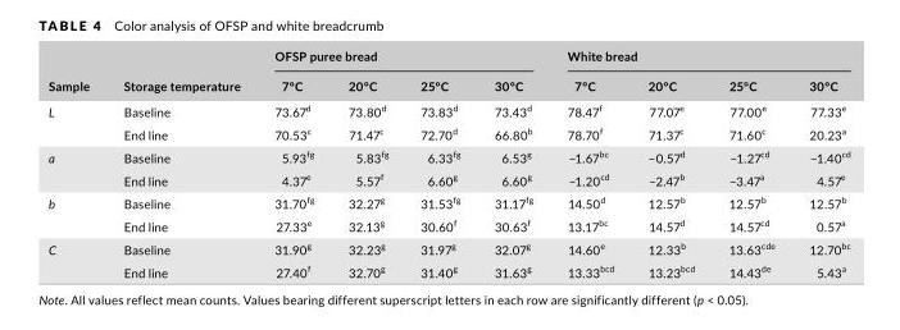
<table><thead><tr><td rowspan="2">Sample</td><td rowspan="2">Storage temperature</td><td colspan="4">OFSP puree bread</td><td colspan="4">White bread</td></tr><tr><td>7°C</td><td>20°C</td><td>25°C</td><td>30°C</td><td>7°C</td><td>20°C</td><td>25°C</td><td>30°C</td></tr></thead><tbody><tr><td rowspan="2">L</td><td>Baseline</td><td>73.67<sup>d</sup></td><td>73.80<sup>d</sup></td><td>73.83<sup>d</sup></td><td>73.43<sup>d</sup></td><td>78.47<sup>f</sup></td><td>77.07<sup>e</sup></td><td>77.00<sup>e</sup></td><td>77.33<sup>e</sup></td></tr><tr><td>End line</td><td>70.53<sup>c</sup></td><td>71.47<sup>c</sup></td><td>72.70<sup>d</sup></td><td>66.80<sup>b</sup></td><td>78.70<sup>f</sup></td><td>71.37<sup>c</sup></td><td>71.60<sup>c</sup></td><td>20.23<sup>a</sup></td></tr><tr><td rowspan="2">a</td><td>Baseline</td><td>5.93<sup>fg</sup></td><td>5.83<sup>fg</sup></td><td>6.33<sup>fg</sup></td><td>6.53<sup>g</sup></td><td>−1.67<sup>bc</sup></td><td>−0.57<sup>d</sup></td><td>−1.27<sup>cd</sup></td><td>−1.40<sup>cd</sup></td></tr><tr><td>End line</td><td>4.37<sup>e</sup></td><td>5.57<sup>f</sup></td><td>6.60<sup>g</sup></td><td>6.60<sup>g</sup></td><td>−1.20<sup>cd</sup></td><td>−2.47<sup>b</sup></td><td>−3.47<sup>a</sup></td><td>4.57<sup>e</sup></td></tr><tr><td rowspan="2">b</td><td>Baseline</td><td>31.70<sup>fg</sup></td><td>32.27<sup>g</sup></td><td>31.53<sup>fg</sup></td><td>31.17<sup>fg</sup></td><td>14.50<sup>d</sup></td><td>12.57<sup>b</sup></td><td>12.57<sup>b</sup></td><td>12.57<sup>b</sup></td></tr><tr><td>End line</td><td>27.33<sup>e</sup></td><td>32.13<sup>g</sup></td><td>30.60<sup>f</sup></td><td>30.63<sup>f</sup></td><td>13.17<sup>bc</sup></td><td>14.57<sup>d</sup></td><td>14.57<sup>cd</sup></td><td>0.57<sup>a</sup></td></tr><tr><td rowspan="2">C</td><td>Baseline</td><td>31.90<sup>g</sup></td><td>32.23<sup>g</sup></td><td>31.97<sup>g</sup></td><td>32.07<sup>g</sup></td><td>14.60<sup>e</sup></td><td>12.33<sup>b</sup></td><td>13.63<sup>cde</sup></td><td>12.70<sup>bc</sup></td></tr><tr><td>End line</td><td>27.40<sup>f</sup></td><td>32.70<sup>g</sup></td><td>31.40<sup>g</sup></td><td>31.63<sup>g</sup></td><td>13.33<sup>bcd</sup></td><td>13.23<sup>bcd</sup></td><td>14.43<sup>de</sup></td><td>5.43<sup>a</sup></td></tr></tbody></table>